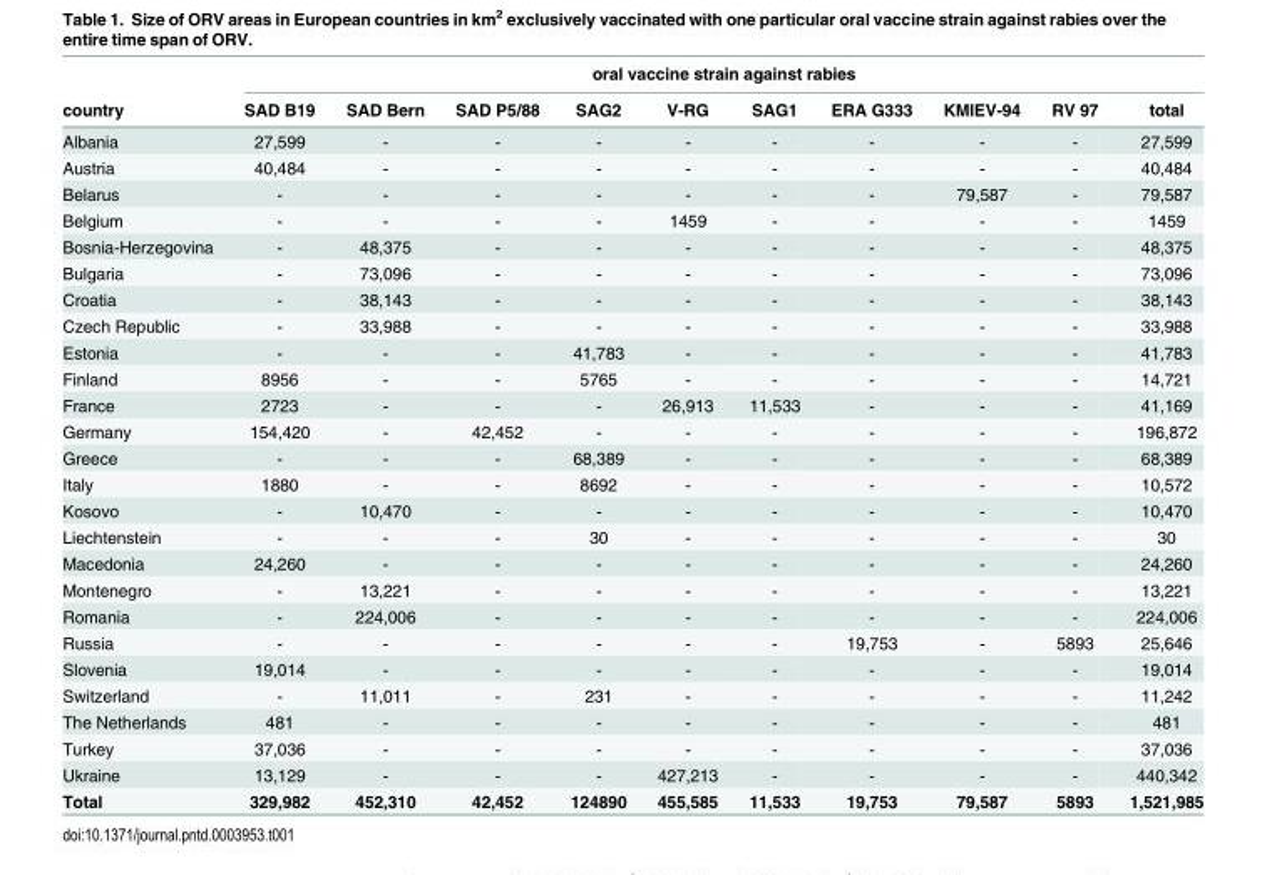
<table><thead><tr><td rowspan="2">country</td><td colspan="10">oral vaccine strain against rabies</td></tr><tr><td>SAD B19</td><td>SAD Bern</td><td>SAD P5/88</td><td>SAG2</td><td>V-RG</td><td>SAG1</td><td>ERA G333</td><td>KMIEV-94</td><td>RV 97</td><td>total</td></tr></thead><tbody><tr><td>Albania</td><td>27,599</td><td>-</td><td>-</td><td>-</td><td>-</td><td>-</td><td>-</td><td>-</td><td>-</td><td>27,599</td></tr><tr><td>Austria</td><td>40,484</td><td>-</td><td>-</td><td>-</td><td>-</td><td>-</td><td>-</td><td>-</td><td>-</td><td>40,484</td></tr><tr><td>Belarus</td><td>-</td><td>-</td><td>-</td><td>-</td><td>-</td><td>-</td><td>-</td><td>79,587</td><td>-</td><td>79,587</td></tr><tr><td>Belgium</td><td>-</td><td>-</td><td>-</td><td>-</td><td>1459</td><td>-</td><td>-</td><td>-</td><td>-</td><td>1459</td></tr><tr><td>Bosnia-Herzegovina</td><td>-</td><td>48,375</td><td>-</td><td>-</td><td>-</td><td>-</td><td>-</td><td>-</td><td>-</td><td>48,375</td></tr><tr><td>Bulgaria</td><td>-</td><td>73,096</td><td>-</td><td>-</td><td>-</td><td>-</td><td>-</td><td>-</td><td>-</td><td>73,096</td></tr><tr><td>Croatia</td><td>-</td><td>38,143</td><td>-</td><td>-</td><td>-</td><td>-</td><td>-</td><td>-</td><td>-</td><td>38,143</td></tr><tr><td>Czech Republic</td><td>-</td><td>33,988</td><td>-</td><td>-</td><td>-</td><td>-</td><td>-</td><td>-</td><td>-</td><td>33,988</td></tr><tr><td>Estonia</td><td>-</td><td>-</td><td>-</td><td>41,783</td><td>-</td><td>-</td><td>-</td><td>-</td><td>-</td><td>41,783</td></tr><tr><td>Finland</td><td>8956</td><td>-</td><td>-</td><td>5765</td><td>-</td><td>-</td><td>-</td><td>-</td><td>-</td><td>14,721</td></tr><tr><td>France</td><td>2723</td><td>-</td><td>-</td><td>-</td><td>26,913</td><td>11,533</td><td>-</td><td>-</td><td>-</td><td>41,169</td></tr><tr><td>Germany</td><td>154,420</td><td>-</td><td>42,452</td><td>-</td><td>-</td><td>-</td><td>-</td><td>-</td><td>-</td><td>196,872</td></tr><tr><td>Greece</td><td>-</td><td>-</td><td>-</td><td>68,389</td><td>-</td><td>-</td><td>-</td><td>-</td><td>-</td><td>68,389</td></tr><tr><td>Italy</td><td>1880</td><td>-</td><td>-</td><td>8692</td><td>-</td><td>-</td><td>-</td><td>-</td><td>-</td><td>10,572</td></tr><tr><td>Kosovo</td><td>-</td><td>10,470</td><td>-</td><td>-</td><td>-</td><td>-</td><td>-</td><td>-</td><td>-</td><td>10,470</td></tr><tr><td>Liechtenstein</td><td>-</td><td>-</td><td>-</td><td>30</td><td>-</td><td>-</td><td>-</td><td>-</td><td>-</td><td>30</td></tr><tr><td>Macedonia</td><td>24,260</td><td>-</td><td>-</td><td>-</td><td>-</td><td>-</td><td>-</td><td>-</td><td>-</td><td>24,260</td></tr><tr><td>Montenegro</td><td>-</td><td>13,221</td><td>-</td><td>-</td><td>-</td><td>-</td><td>-</td><td>-</td><td>-</td><td>13,221</td></tr><tr><td>Romania</td><td>-</td><td>224,006</td><td>-</td><td>-</td><td>-</td><td>-</td><td>-</td><td>-</td><td>-</td><td>224,006</td></tr><tr><td>Russia</td><td>-</td><td>-</td><td>-</td><td>-</td><td>-</td><td>-</td><td>19,753</td><td>-</td><td>5893</td><td>25,646</td></tr><tr><td>Slovenia</td><td>19,014</td><td>-</td><td>-</td><td>-</td><td>-</td><td>-</td><td>-</td><td>-</td><td>-</td><td>19,014</td></tr><tr><td>Switzerland</td><td>-</td><td>11,011</td><td>-</td><td>231</td><td>-</td><td>-</td><td>-</td><td>-</td><td>-</td><td>11,242</td></tr><tr><td>The Netherlands</td><td>481</td><td>-</td><td>-</td><td>-</td><td>-</td><td>-</td><td>-</td><td>-</td><td>-</td><td>481</td></tr><tr><td>Turkey</td><td>37,036</td><td>-</td><td>-</td><td>-</td><td>-</td><td>-</td><td>-</td><td>-</td><td>-</td><td>37,036</td></tr><tr><td>Ukraine</td><td>13,129</td><td>-</td><td>-</td><td>-</td><td>427,213</td><td>-</td><td>-</td><td>-</td><td>-</td><td>440,342</td></tr><tr><td>Total</td><td>329,982</td><td>452,310</td><td>42,452</td><td>124890</td><td>455,585</td><td>11,533</td><td>19,753</td><td>79,587</td><td>5893</td><td>1,521,985</td></tr></tbody></table>